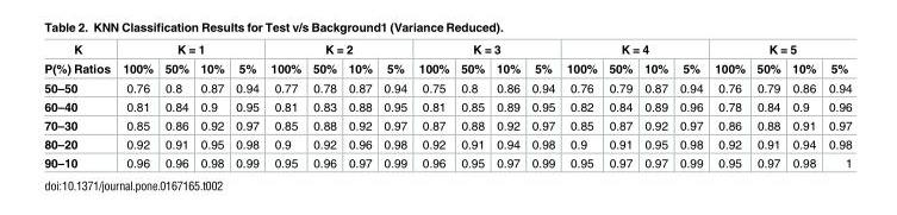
<table><thead><tr><td rowspan="2">K P(%) Ratios</td><td colspan="4">K = 1</td><td colspan="4">K = 2</td><td colspan="4">K = 3</td><td colspan="4">K = 4</td><td colspan="4">K = 5</td></tr><tr><td>100%</td><td>50%</td><td>10%</td><td>5%</td><td>100%</td><td>50%</td><td>10%</td><td>5%</td><td>100%</td><td>50%</td><td>10%</td><td>5%</td><td>100%</td><td>50%</td><td>10%</td><td>5%</td><td>100%</td><td>50%</td><td>10%</td><td>5%</td></tr></thead><tbody><tr><td>50–50</td><td>0.76</td><td>0.8</td><td>0.87</td><td>0.94</td><td>0.77</td><td>0.78</td><td>0.87</td><td>0.94</td><td>0.75</td><td>0.8</td><td>0.86</td><td>0.94</td><td>0.76</td><td>0.79</td><td>0.87</td><td>0.94</td><td>0.76</td><td>0.79</td><td>0.86</td><td>0.94</td></tr><tr><td>60–40</td><td>0.81</td><td>0.84</td><td>0.9</td><td>0.95</td><td>0.81</td><td>0.83</td><td>0.88</td><td>0.95</td><td>0.81</td><td>0.85</td><td>0.89</td><td>0.95</td><td>0.82</td><td>0.84</td><td>0.89</td><td>0.96</td><td>0.78</td><td>0.84</td><td>0.9</td><td>0.96</td></tr><tr><td>70–30</td><td>0.85</td><td>0.86</td><td>0.92</td><td>0.97</td><td>0.85</td><td>0.88</td><td>0.92</td><td>0.97</td><td>0.87</td><td>0.88</td><td>0.92</td><td>0.97</td><td>0.85</td><td>0.87</td><td>0.92</td><td>0.97</td><td>0.86</td><td>0.88</td><td>0.91</td><td>0.97</td></tr><tr><td>80–20</td><td>0.92</td><td>0.91</td><td>0.95</td><td>0.98</td><td>0.9</td><td>0.92</td><td>0.96</td><td>0.98</td><td>0.92</td><td>0.91</td><td>0.94</td><td>0.98</td><td>0.9</td><td>0.91</td><td>0.95</td><td>0.98</td><td>0.92</td><td>0.91</td><td>0.94</td><td>0.98</td></tr><tr><td>90–10</td><td>0.96</td><td>0.96</td><td>0.98</td><td>0.99</td><td>0.95</td><td>0.96</td><td>0.97</td><td>0.99</td><td>0.96</td><td>0.95</td><td>0.97</td><td>0.99</td><td>0.95</td><td>0.97</td><td>0.97</td><td>0.99</td><td>0.95</td><td>0.97</td><td>0.98</td><td>1</td></tr></tbody></table>